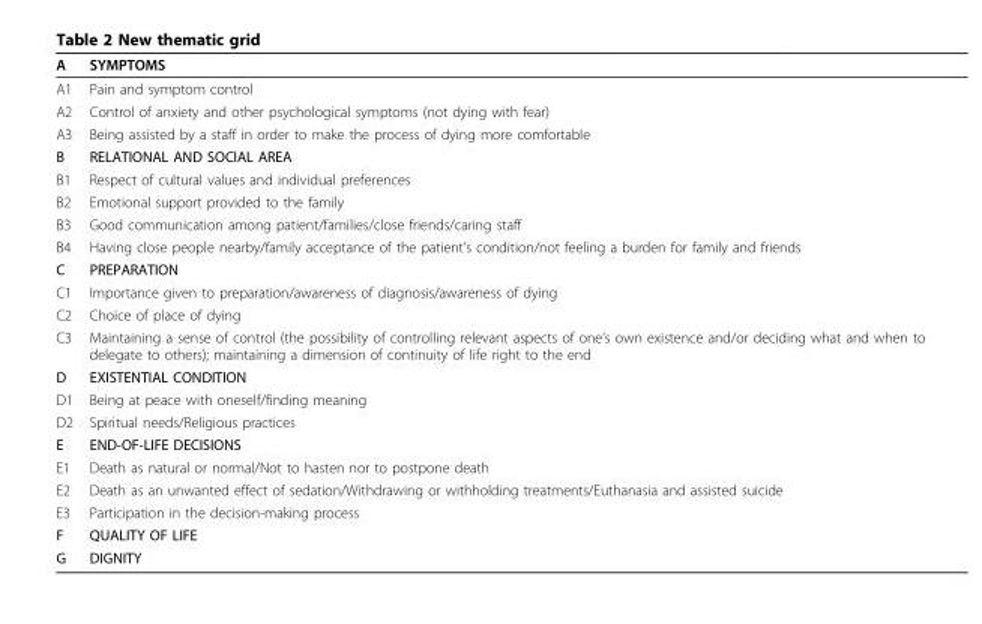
<table><tbody><tr><td>A</td><td>SYMPTOMS</td></tr><tr><td>A1</td><td>Pain and symptom control</td></tr><tr><td>A2</td><td>Control of anxiety and other psychological symptoms (not dying with fear)</td></tr><tr><td>A3</td><td>Being assisted by a staff in order to make the process of dying more comfortable</td></tr><tr><td>B</td><td>RELATIONAL AND SOCIAL AREA</td></tr><tr><td>B1</td><td>Respect of cultural values and individual preferences</td></tr><tr><td>B2</td><td>Emotional support provided to the family</td></tr><tr><td>B3</td><td>Good communication among patient/families/close friends/caring staff</td></tr><tr><td>B4</td><td>Having close people nearby/family acceptance of the patient’s condition/not feeling a burden for family and friends</td></tr><tr><td>C</td><td>PREPARATION</td></tr><tr><td>C1</td><td>Importance given to preparation/awareness of diagnosis/awareness of dying</td></tr><tr><td>C2</td><td>Choice of place of dying</td></tr><tr><td>C3</td><td>Maintaining a sense of control (the possibility of controlling relevant aspects of one’s own existence and/or deciding what and when to delegate to others); maintaining a dimension of continuity of life right to the end</td></tr><tr><td>D</td><td>EXISTENTIAL CONDITION</td></tr><tr><td>D1</td><td>Being at peace with oneself/finding meaning</td></tr><tr><td>D2</td><td>Spiritual needs/Religious practices</td></tr><tr><td>E</td><td>END-OF-LIFE DECISIONS</td></tr><tr><td>E1</td><td>Death as natural or normal/Not to hasten nor to postpone death</td></tr><tr><td>E2</td><td>Death as an unwanted effect of sedation/Withdrawing or withholding treatments/Euthanasia and assisted suicide</td></tr><tr><td>E3</td><td>Participation in the decision-making process</td></tr><tr><td>F</td><td>QUALITY OF LIFE</td></tr><tr><td>G</td><td>DIGNITY</td></tr></tbody></table>